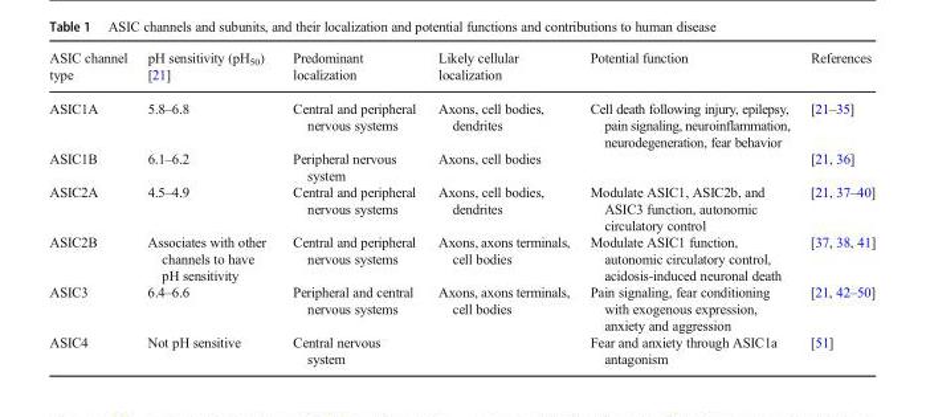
<table><thead><tr><td>ASIC channel type</td><td>pH sensitivity (pH<sub>50</sub>) [21]</td><td>Predominant localization</td><td>Likely cellular localization</td><td>Potential function</td><td>References</td></tr></thead><tbody><tr><td>ASIC1A</td><td>5.8–6.8</td><td>Central and peripheral nervous systems</td><td>Axons, cell bodies, dendrites</td><td>Cell death following injury, epilepsy, pain signaling, neuroinflammation, neurodegeneration, fear behavior</td><td>[21–35]</td></tr><tr><td>ASIC1B</td><td>6.1–6.2</td><td>Peripheral nervous system</td><td>Axons, cell bodies</td><td></td><td>[21, 36]</td></tr><tr><td>ASIC2A</td><td>4.5–4.9</td><td>Central and peripheral nervous systems</td><td>Axons, cell bodies, dendrites</td><td>Modulate ASIC1, ASIC2b, and ASIC3 function, autonomic circulatory control</td><td>[21, 37–40]</td></tr><tr><td>ASIC2B</td><td>Associates with other channels to have pH sensitivity</td><td>Central and peripheral nervous systems</td><td>Axons, axons terminals, cell bodies</td><td>Modulate ASIC1 function, autonomic circulatory control, acidosis-induced neuronal death</td><td>[37, 38, 41]</td></tr><tr><td>ASIC3</td><td>6.4–6.6</td><td>Peripheral and central nervous systems</td><td>Axons, axons terminals, cell bodies</td><td>Pain signaling, fear conditioning with exogenous expression, anxiety and aggression</td><td>[21, 42–50]</td></tr><tr><td>ASIC4</td><td>Not pH sensitive</td><td>Central nervous system</td><td></td><td>Fear and anxiety through ASIC1a antagonism</td><td>[51]</td></tr></tbody></table>